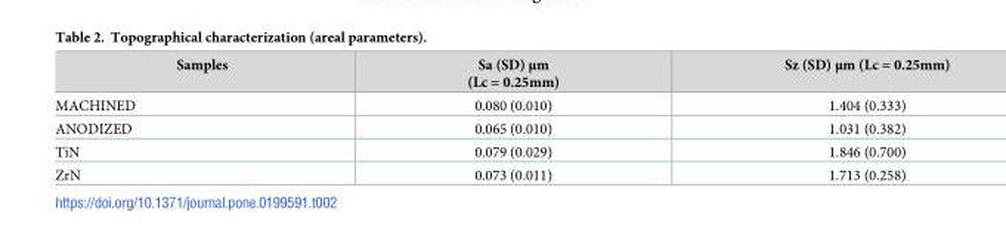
<table><thead><tr><td>Samples</td><td>Sa (SD) μm (Lc = 0.25mm)</td><td>Sz (SD) μm (Lc = 0.25mm)</td></tr></thead><tbody><tr><td>MACHINED</td><td>0.080 (0.010)</td><td>1.404 (0.333)</td></tr><tr><td>ANODIZED</td><td>0.065 (0.010)</td><td>1.031 (0.382)</td></tr><tr><td>TiN</td><td>0.079 (0.029)</td><td>1.846 (0.700)</td></tr><tr><td>ZrN</td><td>0.073 (0.011)</td><td>1.713 (0.258)</td></tr></tbody></table>